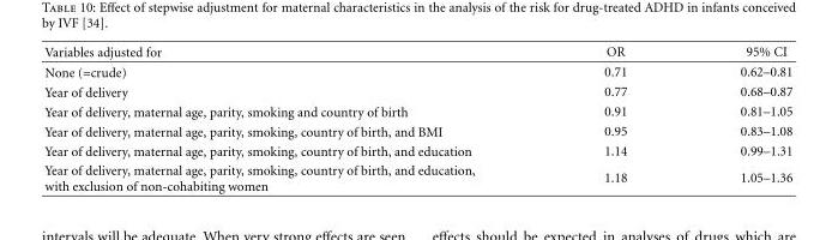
<table><thead><tr><td>Variables adjusted for</td><td>OR</td><td>95% CI</td></tr></thead><tbody><tr><td>None (=crude)</td><td>0.71</td><td>0.62–0.81</td></tr><tr><td>Year of delivery</td><td>0.77</td><td>0.68–0.87</td></tr><tr><td>Year of delivery, maternal age, parity, smoking and country of birth</td><td>0.91</td><td>0.81–1.05</td></tr><tr><td>Year of delivery, maternal age, parity, smoking, country of birth, and BMI</td><td>0.95</td><td>0.83–1.08</td></tr><tr><td>Year of delivery, maternal age, parity, smoking, country of birth, and education</td><td>1.14</td><td>0.99–1.31</td></tr><tr><td>Year of delivery, maternal age, parity, smoking, country of birth, and education, with exclusion of non-cohabiting women</td><td>1.18</td><td>1.05–1.36</td></tr></tbody></table>